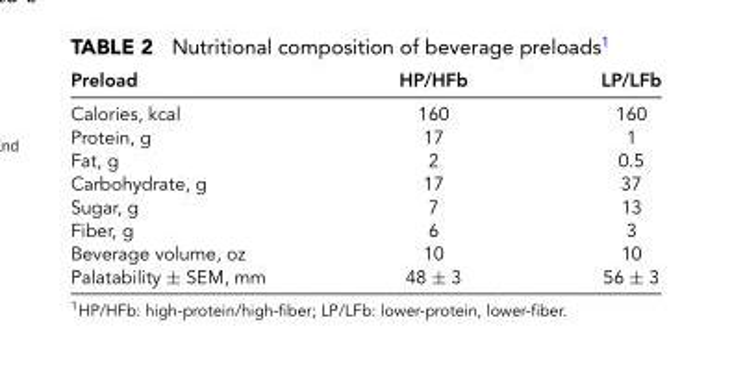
<table><thead><tr><td>Preload</td><td>HP/HFb</td><td>LP/LFb</td></tr></thead><tbody><tr><td>Calories, kcal</td><td>160</td><td>160</td></tr><tr><td>Protein, g</td><td>17</td><td>1</td></tr><tr><td>Fat, g</td><td>2</td><td>0.5</td></tr><tr><td>Carbohydrate, g</td><td>17</td><td>37</td></tr><tr><td>Sugar, g</td><td>7</td><td>13</td></tr><tr><td>Fiber, g</td><td>6</td><td>3</td></tr><tr><td>Beverage volume, oz</td><td>10</td><td>10</td></tr><tr><td>Palatability ± SEM, mm</td><td>48 ± 3</td><td>56 ± 3</td></tr></tbody></table>